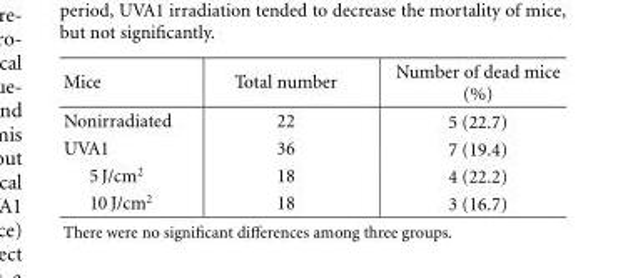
<table><thead><tr><td>Mice</td><td>Total number</td><td>Number of dead mice (%)</td></tr></thead><tbody><tr><td>Nonirradiated</td><td>22</td><td>5 (22.7)</td></tr><tr><td>UVA1</td><td>36</td><td>7 (19.4)</td></tr><tr><td>5 J/cm<sup>2</sup></td><td>18</td><td>4 (22.2)</td></tr><tr><td>10 J/cm<sup>2</sup></td><td>18</td><td>3 (16.7)</td></tr></tbody></table>